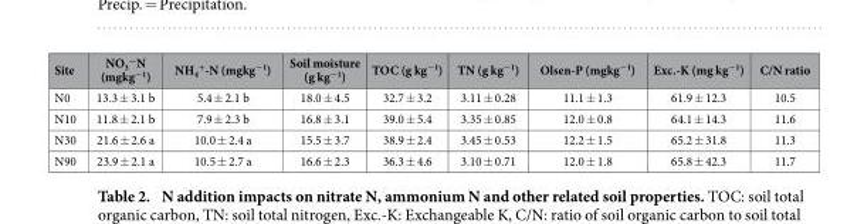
<table><thead><tr><td>Site</td><td>NO<sub>3</sub> <sup>—</sup>N (mgkg<sup>−1</sup>)</td><td>NH<sub>4</sub> <sup>+</sup>-N (mgkg<sup>−1</sup>)</td><td>Soil moisture (g kg<sup>−1</sup>)</td><td>TOC (g kg<sup>−1</sup>)</td><td>TN (g kg<sup>−1</sup>)</td><td>Olsen-P (mgkg<sup>−1</sup>)</td><td>Exc.-K (mg kg<sup>−1</sup>)</td><td>C/N ratio</td></tr></thead><tbody><tr><td>N0</td><td>13.3 ± 3.1 b</td><td>5.4 ± 2.1 b</td><td>18.0 ± 4.5</td><td>32.7 ± 3.2</td><td>3.11 ± 0.28</td><td>11.1 ± 1.3</td><td>61.9 ± 12.3</td><td>10.5</td></tr><tr><td>N10</td><td>11.8 ± 2.1 b</td><td>7.9 ± 2.3 b</td><td>16.8 ± 3.1</td><td>39.0 ± 5.4</td><td>3.35 ± 0.85</td><td>12.0 ± 0.8</td><td>64.1 ± 14.3</td><td>11.6</td></tr><tr><td>N30</td><td>21.6 ± 2.6 a</td><td>10.0 ± 2.4 a</td><td>15.5 ± 3.7</td><td>38.9 ± 2.4</td><td>3.45 ± 0.53</td><td>12.2 ± 1.5</td><td>65.2 ± 31.8</td><td>11.3</td></tr><tr><td>N90</td><td>23.9 ± 2.1 a</td><td>10.5 ± 2.7 a</td><td>16.6 ± 2.3</td><td>36.3 ± 4.6</td><td>3.10 ± 0.71</td><td>12.0 ± 1.8</td><td>65.8 ± 42.3</td><td>11.7</td></tr></tbody></table>